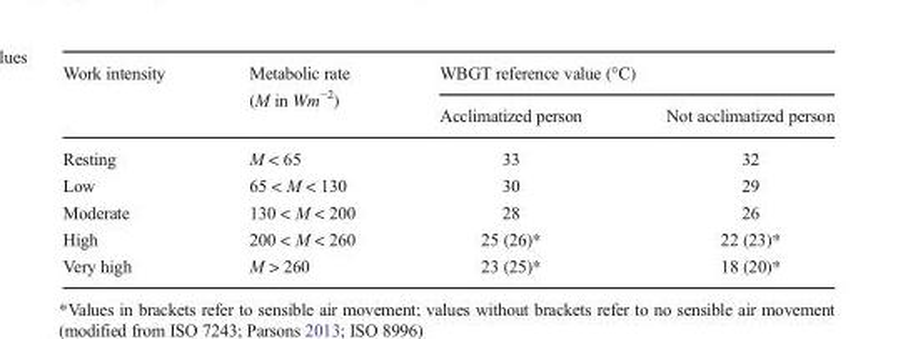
<table><thead><tr><td rowspan="2">Work intensity</td><td rowspan="2">Metabolic rate (M in Wm<sup>−2</sup>)</td><td colspan="2">WBGT reference value (°C)</td></tr><tr><td>Acclimatized person</td><td>Not acclimatized person</td></tr></thead><tbody><tr><td>Resting</td><td>M &lt; 65</td><td>33</td><td>32</td></tr><tr><td>Low</td><td>65 &lt; M &lt; 130</td><td>30</td><td>29</td></tr><tr><td>Moderate</td><td>130 &lt; M &lt; 200</td><td>28</td><td>26</td></tr><tr><td>High</td><td>200 &lt; M &lt; 260</td><td>25 (26)*</td><td>22 (23)*</td></tr><tr><td>Very high</td><td>M &gt; 260</td><td>23 (25)*</td><td>18 (20)*</td></tr></tbody></table>